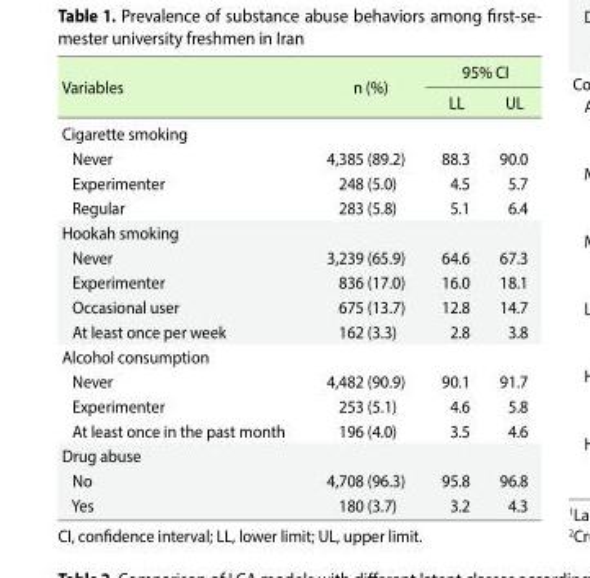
<table><thead><tr><td rowspan="2">Variables</td><td rowspan="2">n (%)</td><td colspan="2">95% CI</td></tr><tr><td>LL</td><td>UL</td></tr></thead><tbody><tr><td colspan="4">Cigarette smoking</td></tr><tr><td>Never</td><td>4,385 (89.2)</td><td>88.3</td><td>90.0</td></tr><tr><td>Experimenter</td><td>248 (5.0)</td><td>4.5</td><td>5.7</td></tr><tr><td>Regular</td><td>283 (5.8)</td><td>5.1</td><td>6.4</td></tr><tr><td colspan="4">Hookah smoking</td></tr><tr><td>Never</td><td>3,239 (65.9)</td><td>64.6</td><td>67.3</td></tr><tr><td>Experimenter</td><td>836 (17.0)</td><td>16.0</td><td>18.1</td></tr><tr><td>Occasional user</td><td>675 (13.7)</td><td>12.8</td><td>14.7</td></tr><tr><td>At least once per week</td><td>162 (3.3)</td><td>2.8</td><td>3.8</td></tr><tr><td colspan="4">Alcohol consumption</td></tr><tr><td>Never</td><td>4,482 (90.9)</td><td>90.1</td><td>91.7</td></tr><tr><td>Experimenter</td><td>253 (5.1)</td><td>4.6</td><td>5.8</td></tr><tr><td>At least once in the past month</td><td>196 (4.0)</td><td>3.5</td><td>4.6</td></tr><tr><td colspan="4">Drug abuse</td></tr><tr><td>No</td><td>4,708 (96.3)</td><td>95.8</td><td>96.8</td></tr><tr><td>Yes</td><td>180 (3.7)</td><td>3.2</td><td>4.3</td></tr></tbody></table>